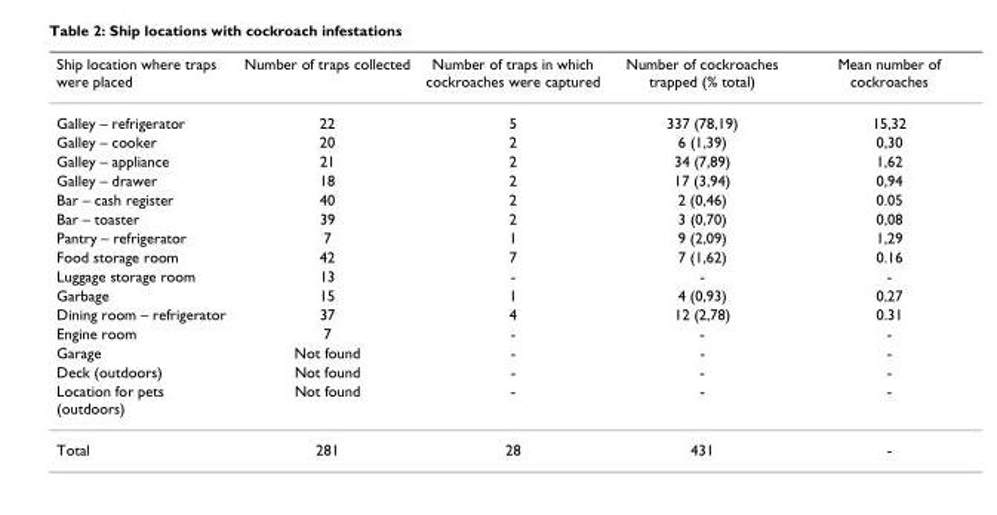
<table><thead><tr><td>Ship location where traps were placed</td><td>Number of traps collected</td><td>Number of traps in which cockroaches were captured</td><td>Number of cockroaches trapped (% total)</td><td>Mean number of cockroaches</td></tr></thead><tbody><tr><td>Galley – refrigerator</td><td>22</td><td>5</td><td>337 (78,19)</td><td>15,32</td></tr><tr><td>Galley – cooker</td><td>20</td><td>2</td><td>6 (1,39)</td><td>0,30</td></tr><tr><td>Galley – appliance</td><td>21</td><td>2</td><td>34 (7,89)</td><td>1,62</td></tr><tr><td>Galley – drawer</td><td>18</td><td>2</td><td>17 (3,94)</td><td>0,94</td></tr><tr><td>Bar – cash register</td><td>40</td><td>2</td><td>2 (0,46)</td><td>0.05</td></tr><tr><td>Bar – toaster</td><td>39</td><td>2</td><td>3 (0,70)</td><td>0,08</td></tr><tr><td>Pantry – refrigerator</td><td>7</td><td>1</td><td>9 (2,09)</td><td>1,29</td></tr><tr><td>Food storage room</td><td>42</td><td>7</td><td>7 (1,62)</td><td>0.16</td></tr><tr><td>Luggage storage room</td><td>13</td><td>-</td><td>-</td><td>-</td></tr><tr><td>Garbage</td><td>15</td><td>1</td><td>4 (0,93)</td><td>0,27</td></tr><tr><td>Dining room – refrigerator</td><td>37</td><td>4</td><td>12 (2,78)</td><td>0.31</td></tr><tr><td>Engine room</td><td>7</td><td>-</td><td>-</td><td>-</td></tr><tr><td>Garage</td><td>Not found</td><td>-</td><td>-</td><td>-</td></tr><tr><td>Deck (outdoors)</td><td>Not found</td><td>-</td><td>-</td><td>-</td></tr><tr><td>Location for pets (outdoors)</td><td>Not found</td><td>-</td><td>-</td><td>-</td></tr><tr><td>Total</td><td>281</td><td>28</td><td>431</td><td>-</td></tr></tbody></table>